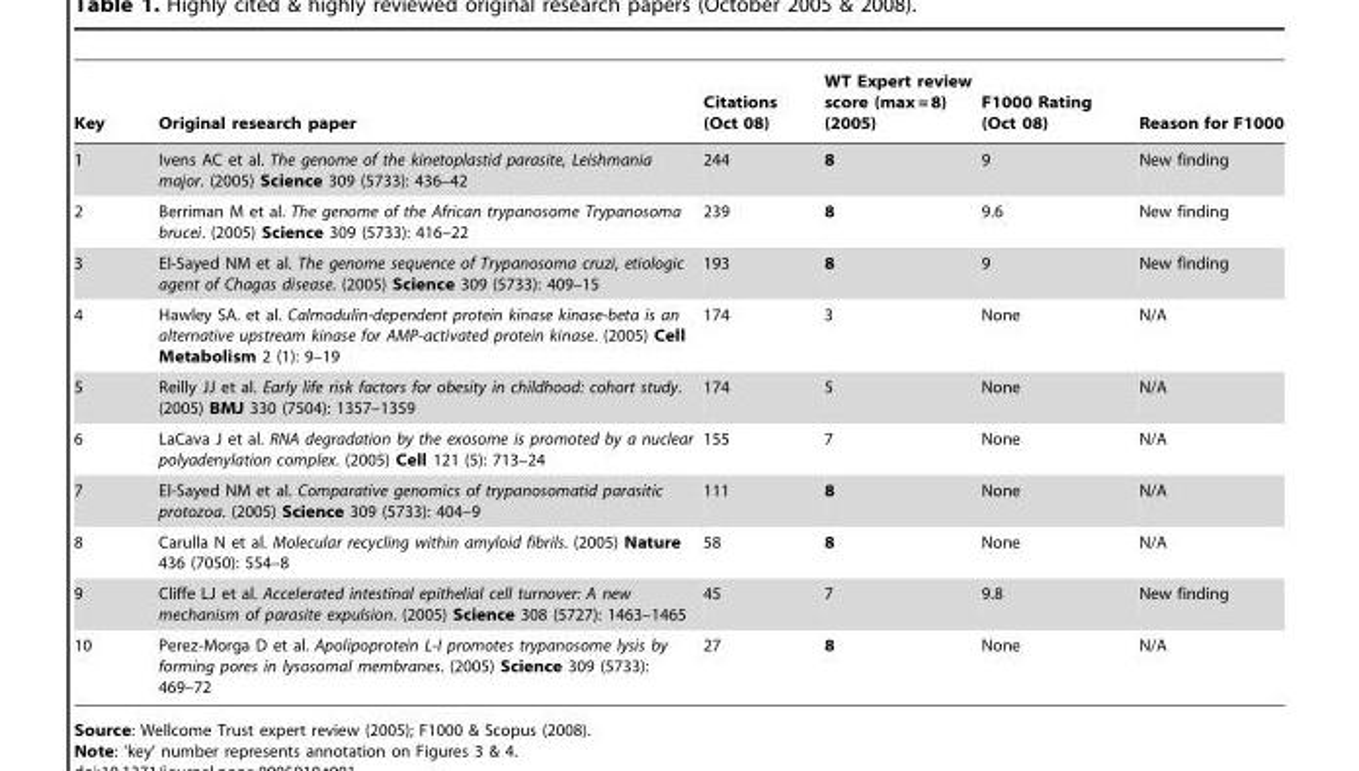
<table><thead><tr><td>Key</td><td>Original research paper</td><td>Citations (Oct 08)</td><td>WT Expert review score (max = 8) (2005)</td><td>F1000 Rating (Oct 08)</td><td>Reason for F1000</td></tr></thead><tbody><tr><td>1</td><td>Ivens AC et al. The genome of the kinetoplastid parasite, Leishmania major. (2005) Science 309 (5733): 436–42</td><td>244</td><td>8</td><td>9</td><td>New finding</td></tr><tr><td>2</td><td>Berriman M et al. The genome of the African trypanosome Trypanosoma brucei. (2005) Science 309 (5733): 416–22</td><td>239</td><td>8</td><td>9.6</td><td>New finding</td></tr><tr><td>3</td><td>El-Sayed NM et al. The genome sequence of Trypanosoma cruzi, etiologic agent of Chagas disease. (2005) Science 309 (5733): 409–15</td><td>193</td><td>8</td><td>9</td><td>New finding</td></tr><tr><td>4</td><td>Hawley SA. et al. Calmodulin-dependent protein kinase kinase-beta is an alternative upstream kinase for AMP-activated protein kinase. (2005) Cell Metabolism 2 (1): 9–19</td><td>174</td><td>3</td><td>None</td><td>N/A</td></tr><tr><td>5</td><td>Reilly JJ et al. Early life risk factors for obesity in childhood: cohort study. (2005) BMJ 330 (7504): 1357–1359</td><td>174</td><td>5</td><td>None</td><td>N/A</td></tr><tr><td>6</td><td>LaCava J et al. RNA degradation by the exosome is promoted by a nuclear polyadenylation complex. (2005) Cell 121 (5): 713–24</td><td>155</td><td>7</td><td>None</td><td>N/A</td></tr><tr><td>7</td><td>El-Sayed NM et al. Comparative genomics of trypanosomatid parasitic protozoa. (2005) Science 309 (5733): 404–9</td><td>111</td><td>8</td><td>None</td><td>N/A</td></tr><tr><td>8</td><td>Carulla N et al. Molecular recycling within amyloid fibrils. (2005) Nature 436 (7050): 554–8</td><td>58</td><td>8</td><td>None</td><td>N/A</td></tr><tr><td>9</td><td>Cliffe LJ et al. Accelerated intestinal epithelial cell turnover: A new mechanism of parasite expulsion. (2005) Science 308 (5727): 1463–1465</td><td>45</td><td>7</td><td>9.8</td><td>New finding</td></tr><tr><td>10</td><td>Perez-Morga D et al. Apolipoprotein L-I promotes trypanosome lysis by forming pores in lysosomal membranes. (2005) Science 309 (5733): 469–72</td><td>27</td><td>8</td><td>None</td><td>N/A</td></tr></tbody></table>